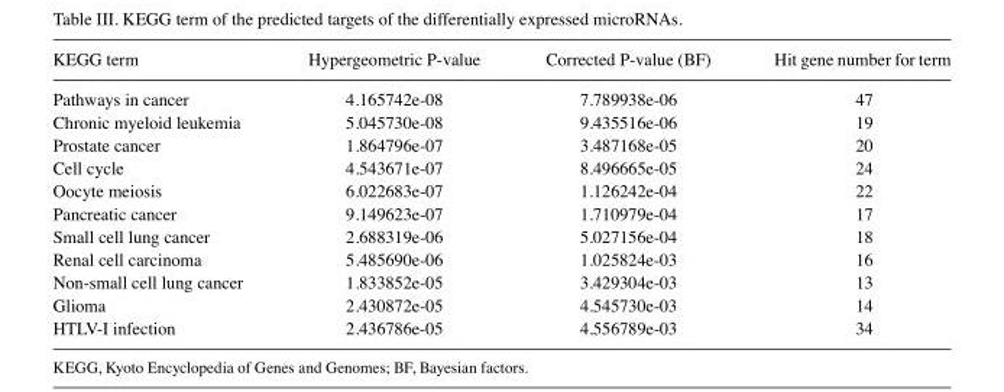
<table><thead><tr><td>KEGG term</td><td>Hypergeometric P-value</td><td>Corrected P-value (BF)</td><td>Hit gene number for term</td></tr></thead><tbody><tr><td>Pathways in cancer</td><td>4.165742e-08</td><td>7.789938e-06</td><td>47</td></tr><tr><td>Chronic myeloid leukemia</td><td>5.045730e-08</td><td>9.435516e-06</td><td>19</td></tr><tr><td>Prostate cancer</td><td>1.864796e-07</td><td>3.487168e-05</td><td>20</td></tr><tr><td>Cell cycle</td><td>4.543671e-07</td><td>8.496665e-05</td><td>24</td></tr><tr><td>Oocyte meiosis</td><td>6.022683e-07</td><td>1.126242e-04</td><td>22</td></tr><tr><td>Pancreatic cancer</td><td>9.149623e-07</td><td>1.710979e-04</td><td>17</td></tr><tr><td>Small cell lung cancer</td><td>2.688319e-06</td><td>5.027156e-04</td><td>18</td></tr><tr><td>Renal cell carcinoma</td><td>5.485690e-06</td><td>1.025824e-03</td><td>16</td></tr><tr><td>Non-small cell lung cancer</td><td>1.833852e-05</td><td>3.429304e-03</td><td>13</td></tr><tr><td>Glioma</td><td>2.430872e-05</td><td>4.545730e-03</td><td>14</td></tr><tr><td>HTLV-I infection</td><td>2.436786e-05</td><td>4.556789e-03</td><td>34</td></tr></tbody></table>